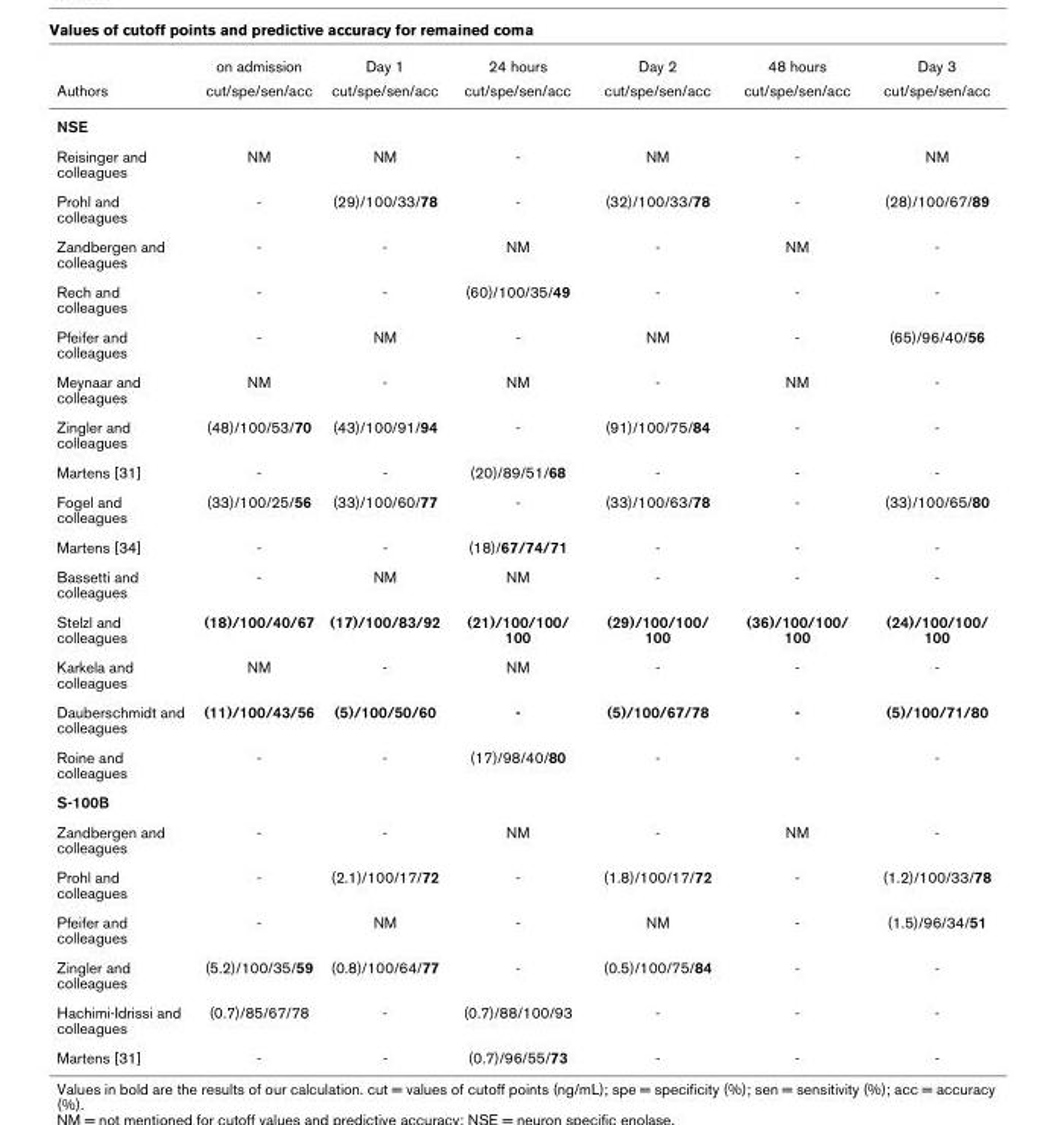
<table><thead><tr><td rowspan="2">Authors</td><td rowspan="2">on admission cut/spe/sen/acc</td><td rowspan="2">Day 1 cut/spe/sen/acc</td><td rowspan="2">24 hours cut/spe/sen/acc</td><td rowspan="2">Day 2 cut/spe/sen/acc</td><td rowspan="2">48 hours cut/spe/sen/acc</td><td rowspan="2">Day 3 cut/spe/sen/acc</td></tr><tr></tr></thead><tbody><tr><td colspan="7">NSE</td></tr><tr><td>Reisinger and colleagues</td><td>NM</td><td>NM</td><td>-</td><td>NM</td><td>-</td><td>NM</td></tr><tr><td>Prohl and colleagues</td><td>-</td><td>(29)/100/33/78</td><td>-</td><td>(32)/100/33/78</td><td>-</td><td>(28)/100/67/89</td></tr><tr><td>Zandbergen and colleagues</td><td>-</td><td>-</td><td>NM</td><td>-</td><td>NM</td><td>-</td></tr><tr><td>Rech and colleagues</td><td>-</td><td>-</td><td>(60)/100/35/49</td><td>-</td><td>-</td><td>-</td></tr><tr><td>Pfeifer and colleagues</td><td>-</td><td>NM</td><td>-</td><td>NM</td><td>-</td><td>(65)/96/40/56</td></tr><tr><td>Meynaar and colleagues</td><td>NM</td><td>-</td><td>NM</td><td>-</td><td>NM</td><td>-</td></tr><tr><td>Zingler and colleagues</td><td>(48)/100/53/70</td><td>(43)/100/91/94</td><td>-</td><td>(91)/100/75/84</td><td>-</td><td>-</td></tr><tr><td>Martens [31]</td><td>-</td><td>-</td><td>(20)/89/51/68</td><td>-</td><td>-</td><td>-</td></tr><tr><td>Fogel and colleagues</td><td>(33)/100/25/56</td><td>(33)/100/60/77</td><td>-</td><td>(33)/100/63/78</td><td>-</td><td>(33)/100/65/80</td></tr><tr><td>Martens [34]</td><td>-</td><td>-</td><td>(18)/67/74/71</td><td>-</td><td>-</td><td>-</td></tr><tr><td>Bassetti and colleagues</td><td>-</td><td>NM</td><td>NM</td><td>-</td><td>-</td><td>-</td></tr><tr><td>Stelzl and colleagues</td><td>(18)/100/40/67</td><td>(17)/100/83/92</td><td>(21)/100/100/ 100</td><td>(29)/100/100/ 100</td><td>(36)/100/100/ 100</td><td>(24)/100/100/ 100</td></tr><tr><td>Karkela and colleagues</td><td>NM</td><td>-</td><td>NM</td><td>-</td><td>-</td><td>-</td></tr><tr><td>Dauberschmidt and colleagues</td><td>(11)/100/43/56</td><td>(5)/100/50/60</td><td>-</td><td>(5)/100/67/78</td><td>-</td><td>(5)/100/71/80</td></tr><tr><td>Roine and colleagues</td><td>-</td><td>-</td><td>(17)/98/40/80</td><td>-</td><td>-</td><td>-</td></tr><tr><td colspan="7">S-100B</td></tr><tr><td>Zandbergen and colleagues</td><td>-</td><td>-</td><td>NM</td><td>-</td><td>NM</td><td>-</td></tr><tr><td>Prohl and colleagues</td><td>-</td><td>(2.1)/100/17/72</td><td>-</td><td>(1.8)/100/17/72</td><td>-</td><td>(1.2)/100/33/78</td></tr><tr><td>Pfeifer and colleagues</td><td>-</td><td>NM</td><td>-</td><td>NM</td><td>-</td><td>(1.5)/96/34/51</td></tr><tr><td>Zingler and colleagues</td><td>(5.2)/100/35/59</td><td>(0.8)/100/64/77</td><td>-</td><td>(0.5)/100/75/84</td><td>-</td><td>-</td></tr><tr><td>Hachimi-Idrissi and colleagues</td><td>(0.7)/85/67/78</td><td>-</td><td>(0.7)/88/100/93</td><td>-</td><td>-</td><td>-</td></tr><tr><td>Martens [31]</td><td>-</td><td>-</td><td>(0.7)/96/55/73</td><td>-</td><td>-</td><td>-</td></tr></tbody></table>